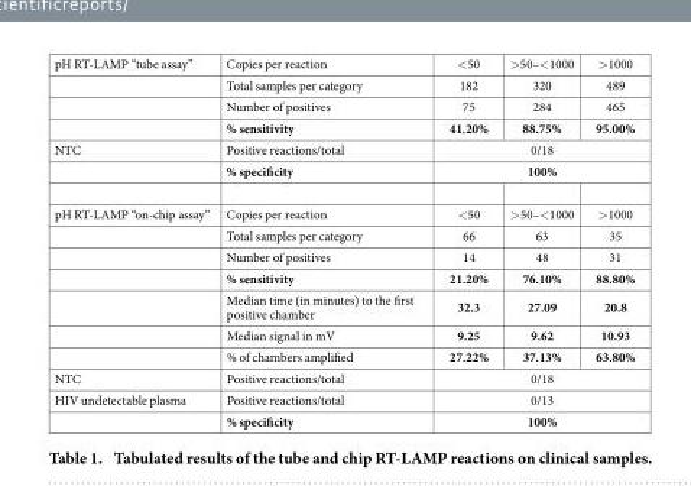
<table><tbody><tr><td rowspan="4">pH RT-LAMP “tube assay”</td><td>Copies per reaction</td><td>&lt; 50</td><td>&gt; 50–&lt; 1000</td><td>&gt; 1000</td></tr><tr><td>Total samples per category</td><td>182</td><td>320</td><td>489</td></tr><tr><td>Number of positives</td><td>75</td><td>284</td><td>465</td></tr><tr><td>% sensitivity</td><td>41.20%</td><td>88.75%</td><td>95.00%</td></tr><tr><td rowspan="2">NTC</td><td>Positive reactions/total</td><td colspan="3">0/18</td></tr><tr><td>% specificity</td><td colspan="3">100%</td></tr><tr><td rowspan="7">pH RT-LAMP “on-chip assay”</td><td>Copies per reaction</td><td>&lt; 50</td><td>&gt; 50–&lt; 1000</td><td>&gt; 1000</td></tr><tr><td>Total samples per category</td><td>66</td><td>63</td><td>35</td></tr><tr><td>Number of positives</td><td>14</td><td>48</td><td>31</td></tr><tr><td>% sensitivity</td><td>21.20%</td><td>76.10%</td><td>88.80%</td></tr><tr><td>Median time (in minutes) to the first positive chamber</td><td>32.3</td><td>27.09</td><td>20.8</td></tr><tr><td>Median signal in mV</td><td>9.25</td><td>9.62</td><td>10.93</td></tr><tr><td>% of chambers amplified</td><td>27.22%</td><td>37.13%</td><td>63.80%</td></tr><tr><td>NTC</td><td>Positive reactions/total</td><td colspan="3">0/18</td></tr><tr><td rowspan="2">HIV undetectable plasma</td><td>Positive reactions/total</td><td colspan="3">0/13</td></tr><tr><td>% specificity</td><td colspan="3">100%</td></tr></tbody></table>